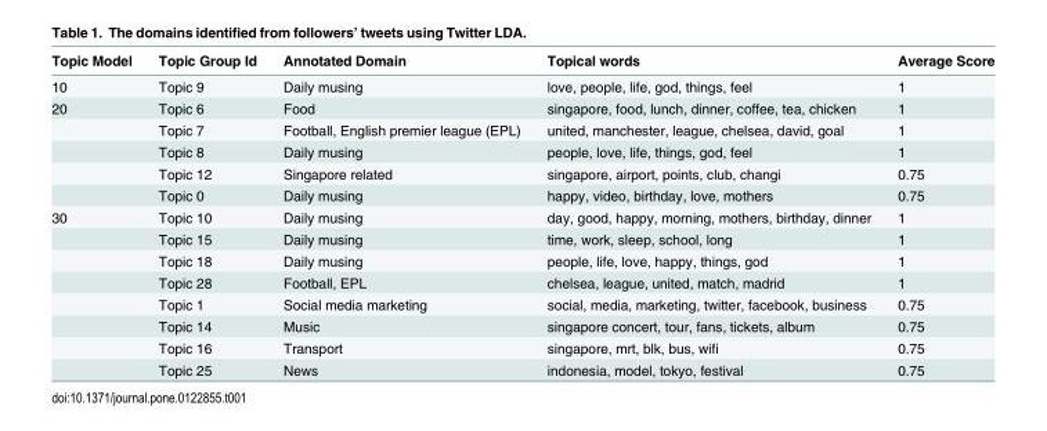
<table><thead><tr><td>Topic Model</td><td>Topic Group Id</td><td>Annotated Domain</td><td>Topical words</td><td>Average Score</td></tr></thead><tbody><tr><td>10</td><td>Topic 9</td><td>Daily musing</td><td>love, people, life, god, things, feel</td><td>1</td></tr><tr><td rowspan="5">20</td><td>Topic 6</td><td>Food</td><td>singapore, food, lunch, dinner, coffee, tea, chicken</td><td>1</td></tr><tr><td>Topic 7</td><td>Football, English premier league (EPL)</td><td>united, manchester, league, chelsea, david, goal</td><td>1</td></tr><tr><td>Topic 8</td><td>Daily musing</td><td>people, love, life, things, god, feel</td><td>1</td></tr><tr><td>Topic 12</td><td>Singapore related</td><td>singapore, airport, points, club, changi</td><td>0.75</td></tr><tr><td>Topic 0</td><td>Daily musing</td><td>happy, video, birthday, love, mothers</td><td>0.75</td></tr><tr><td rowspan="8">30</td><td>Topic 10</td><td>Daily musing</td><td>day, good, happy, morning, mothers, birthday, dinner</td><td>1</td></tr><tr><td>Topic 15</td><td>Daily musing</td><td>time, work, sleep, school, long</td><td>1</td></tr><tr><td>Topic 18</td><td>Daily musing</td><td>people, life, love, happy, things, god</td><td>1</td></tr><tr><td>Topic 28</td><td>Football, EPL</td><td>chelsea, league, united, match, madrid</td><td>1</td></tr><tr><td>Topic 1</td><td>Social media marketing</td><td>social, media, marketing, twitter, facebook, business</td><td>0.75</td></tr><tr><td>Topic 14</td><td>Music</td><td>singapore concert, tour, fans, tickets, album</td><td>0.75</td></tr><tr><td>Topic 16</td><td>Transport</td><td>singapore, mrt, blk, bus, wifi</td><td>0.75</td></tr><tr><td>Topic 25</td><td>News</td><td>indonesia, model, tokyo, festival</td><td>0.75</td></tr></tbody></table>